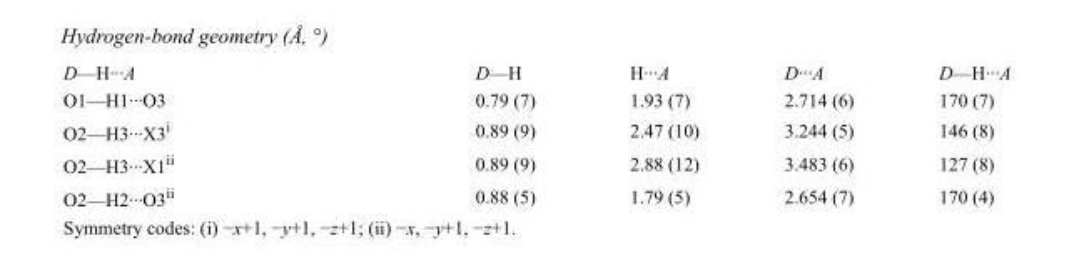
<table><tbody><tr><td>D—H···A</td><td>D—H</td><td>H···A</td><td>D···A</td><td>D—H···A</td></tr><tr><td>O1—H1···O3</td><td>0.79 (7)</td><td>1.93 (7)</td><td>2.714 (6)</td><td>170 (7)</td></tr><tr><td>O2—H3···X3<sup>i</sup></td><td>0.89 (9)</td><td>2.47 (10)</td><td>3.244 (5)</td><td>146 (8)</td></tr><tr><td>O2—H3···X1<sup>ii</sup></td><td>0.89 (9)</td><td>2.88 (12)</td><td>3.483 (6)</td><td>127 (8)</td></tr><tr><td>O2—H2···O3<sup>ii</sup></td><td>0.88 (5)</td><td>1.79 (5)</td><td>2.654 (7)</td><td>170 (4)</td></tr></tbody></table>